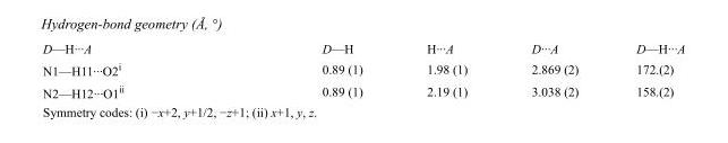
<table><tbody><tr><td>D—H···A</td><td>D—H</td><td>H···A</td><td>D···A</td><td>D—H···A</td></tr><tr><td>N1—H11···O2<sup>i</sup></td><td>0.89 (1)</td><td>1.98 (1)</td><td>2.869 (2)</td><td>172.(2)</td></tr><tr><td>N2—H12···O1<sup>ii</sup></td><td>0.89 (1)</td><td>2.19 (1)</td><td>3.038 (2)</td><td>158.(2)</td></tr></tbody></table>